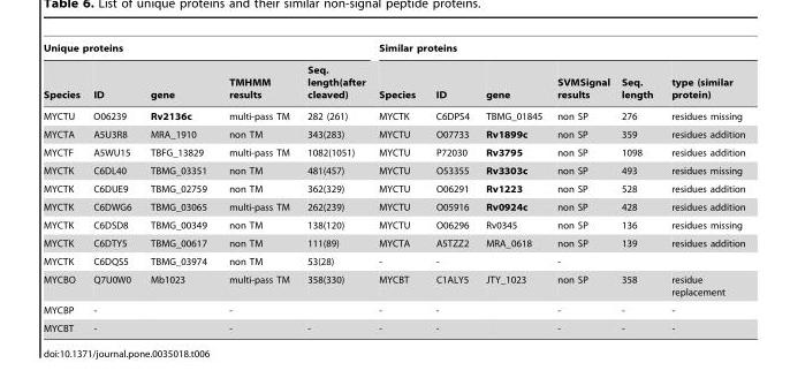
<table><thead><tr><td colspan="5">Unique proteins</td><td colspan="6">Similar proteins</td></tr><tr><td>Species</td><td>ID</td><td>gene</td><td>TMHMM results</td><td>Seq. length(after cleaved)</td><td>Species</td><td>ID</td><td>gene</td><td>SVMSignal results</td><td>Seq. length</td><td>type (similar protein)</td></tr></thead><tbody><tr><td>MYCTU</td><td>O06239</td><td>Rv2136c</td><td>multi-pass TM</td><td>282 (261)</td><td>MYCTK</td><td>C6DPS4</td><td>TBMG_01845</td><td>non SP</td><td>276</td><td>residues missing</td></tr><tr><td>MYCTA</td><td>A5U3R8</td><td>MRA_1910</td><td>non TM</td><td>343(283)</td><td>MYCTU</td><td>O07733</td><td>Rv1899c</td><td>non SP</td><td>359</td><td>residues addition</td></tr><tr><td>MYCTF</td><td>A5WU15</td><td>TBFG_13829</td><td>multi-pass TM</td><td>1082(1051)</td><td>MYCTU</td><td>P72030</td><td>Rv3795</td><td>non SP</td><td>1098</td><td>residues addition</td></tr><tr><td>MYCTK</td><td>C6DL40</td><td>TBMG_03351</td><td>non TM</td><td>481(457)</td><td>MYCTU</td><td>O53355</td><td>Rv3303c</td><td>non SP</td><td>493</td><td>residues missing</td></tr><tr><td>MYCTK</td><td>C6DUE9</td><td>TBMG_02759</td><td>non TM</td><td>362(329)</td><td>MYCTU</td><td>O06291</td><td>Rv1223</td><td>non SP</td><td>528</td><td>residues addition</td></tr><tr><td>MYCTK</td><td>C6DWG6</td><td>TBMG_03065</td><td>multi-pass TM</td><td>262(239)</td><td>MYCTU</td><td>O05916</td><td>Rv0924c</td><td>non SP</td><td>428</td><td>residues addition</td></tr><tr><td>MYCTK</td><td>C6DSD8</td><td>TBMG_00349</td><td>non TM</td><td>138(120)</td><td>MYCTU</td><td>O06296</td><td>Rv0345</td><td>non SP</td><td>136</td><td>residues missing</td></tr><tr><td>MYCTK</td><td>C6DTY5</td><td>TBMG_00617</td><td>non TM</td><td>111(89)</td><td>MYCTA</td><td>A5TZZ2</td><td>MRA_0618</td><td>non SP</td><td>139</td><td>residues addition</td></tr><tr><td>MYCTK</td><td>C6DQS5</td><td>TBMG_03974</td><td>non TM</td><td>53(28)</td><td>-</td><td>-</td><td></td><td>-</td><td></td><td></td></tr><tr><td>MYCBO</td><td>Q7U0W0</td><td>Mb1023</td><td>multi-pass TM</td><td>358(330)</td><td>MYCBT</td><td>C1ALY5</td><td>JTY_1023</td><td>non SP</td><td>358</td><td>residue replacement</td></tr><tr><td>MYCBP</td><td>-</td><td></td><td>-</td><td></td><td>-</td><td>-</td><td></td><td>-</td><td>-</td><td>-</td></tr><tr><td>MYCBT</td><td>-</td><td></td><td>-</td><td>-</td><td>-</td><td>-</td><td></td><td>-</td><td>-</td><td>-</td></tr></tbody></table>